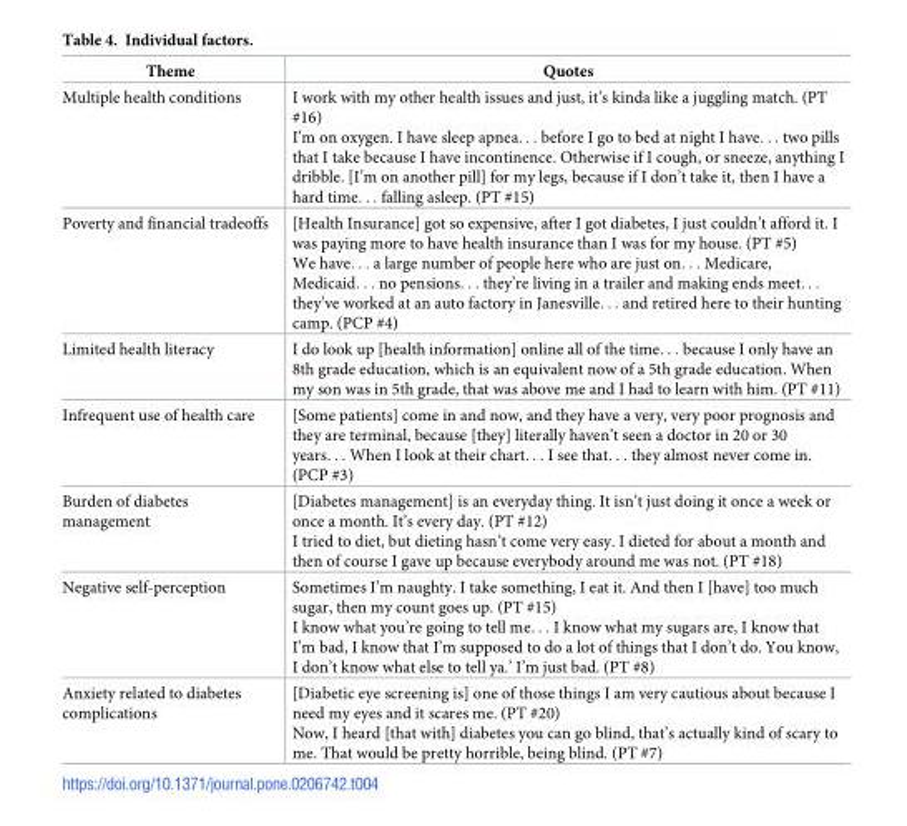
<table><thead><tr><td>Theme</td><td>Quotes</td></tr></thead><tbody><tr><td>Multiple health conditions</td><td>I work with my other health issues and just, it’s kinda like a juggling match. (PT #16) I’m on oxygen. I have sleep apnea. . . before I go to bed at night I have. . . two pills that I take because I have incontinence. Otherwise if I cough, or sneeze, anything I dribble. [I’m on another pill] for my legs, because if I don’t take it, then I have a hard time. . . falling asleep. (PT #15)</td></tr><tr><td>Poverty and financial tradeoffs</td><td>[Health Insurance] got so expensive, after I got diabetes, I just couldn’t afford it. I was paying more to have health insurance than I was for my house. (PT #5) We have. . . a large number of people here who are just on. . . Medicare, Medicaid. . . no pensions. . . they’re living in a trailer and making ends meet. . . they’ve worked at an auto factory in Janesville. . . and retired here to their hunting camp. (PCP #4)</td></tr><tr><td>Limited health literacy</td><td>I do look up [health information] online all of the time. . . because I only have an 8th grade education, which is an equivalent now of a 5th grade education. When my son was in 5th grade, that was above me and I had to learn with him. (PT #11)</td></tr><tr><td>Infrequent use of health care</td><td>[Some patients] come in and now, and they have a very, very poor prognosis and they are terminal, because [they] literally haven’t seen a doctor in 20 or 30 years. . . When I look at their chart. . . I see that. . . they almost never come in. (PCP #3)</td></tr><tr><td>Burden of diabetes management</td><td>[Diabetes management] is an everyday thing. It isn’t just doing it once a week or once a month. It’s every day. (PT #12) I tried to diet, but dieting hasn’t come very easy. I dieted for about a month and then of course I gave up because everybody around me was not. (PT #18)</td></tr><tr><td>Negative self-perception</td><td>Sometimes I’m naughty. I take something, I eat it. And then I [have] too much sugar, then my count goes up. (PT #15) I know what you’re going to tell me. . . I know what my sugars are, I know that I’m bad, I know that I’m supposed to do a lot of things that I don’t do. You know, I don’t know what else to tell ya.’ I’m just bad. (PT #8)</td></tr><tr><td>Anxiety related to diabetes complications</td><td>[Diabetic eye screening is] one of those things I am very cautious about because I need my eyes and it scares me. (PT #20) Now, I heard [that with] diabetes you can go blind, that’s actually kind of scary to me. That would be pretty horrible, being blind. (PT #7)</td></tr></tbody></table>